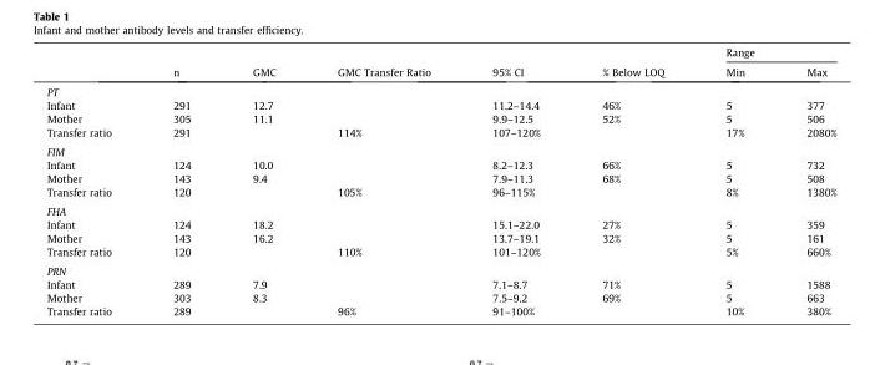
<table><thead><tr><td rowspan="2"></td><td rowspan="2">n</td><td rowspan="2">GMC</td><td rowspan="2">GMC Transfer Ratio</td><td rowspan="2">95% CI</td><td rowspan="2">% Below LOQ</td><td colspan="2">Range</td></tr><tr><td>Min</td><td>Max</td></tr></thead><tbody><tr><td colspan="8">PT</td></tr><tr><td>Infant</td><td>291</td><td>12.7</td><td></td><td>11.2–14.4</td><td>46%</td><td>5</td><td>377</td></tr><tr><td>Mother</td><td>305</td><td>11.1</td><td></td><td>9.9–12.5</td><td>52%</td><td>5</td><td>506</td></tr><tr><td>Transfer ratio</td><td>291</td><td></td><td>114%</td><td>107–120%</td><td></td><td>17%</td><td>2080%</td></tr><tr><td colspan="8">FIM</td></tr><tr><td>Infant</td><td>124</td><td>10.0</td><td></td><td>8.2–12.3</td><td>66%</td><td>5</td><td>732</td></tr><tr><td>Mother</td><td>143</td><td>9.4</td><td></td><td>7.9–11.3</td><td>68%</td><td>5</td><td>508</td></tr><tr><td>Transfer ratio</td><td>120</td><td></td><td>105%</td><td>96–115%</td><td></td><td>8%</td><td>1380%</td></tr><tr><td colspan="8">FHA</td></tr><tr><td>Infant</td><td>124</td><td>18.2</td><td></td><td>15.1–22.0</td><td>27%</td><td>5</td><td>359</td></tr><tr><td>Mother</td><td>143</td><td>16.2</td><td></td><td>13.7–19.1</td><td>32%</td><td>5</td><td>161</td></tr><tr><td>Transfer ratio</td><td>120</td><td></td><td>110%</td><td>101–120%</td><td></td><td>5%</td><td>660%</td></tr><tr><td colspan="8">PRN</td></tr><tr><td>Infant</td><td>289</td><td>7.9</td><td></td><td>7.1–8.7</td><td>71%</td><td>5</td><td>1588</td></tr><tr><td>Mother</td><td>303</td><td>8.3</td><td></td><td>7.5–9.2</td><td>69%</td><td>5</td><td>663</td></tr><tr><td>Transfer ratio</td><td>289</td><td></td><td>96%</td><td>91–100%</td><td></td><td>10%</td><td>380%</td></tr></tbody></table>